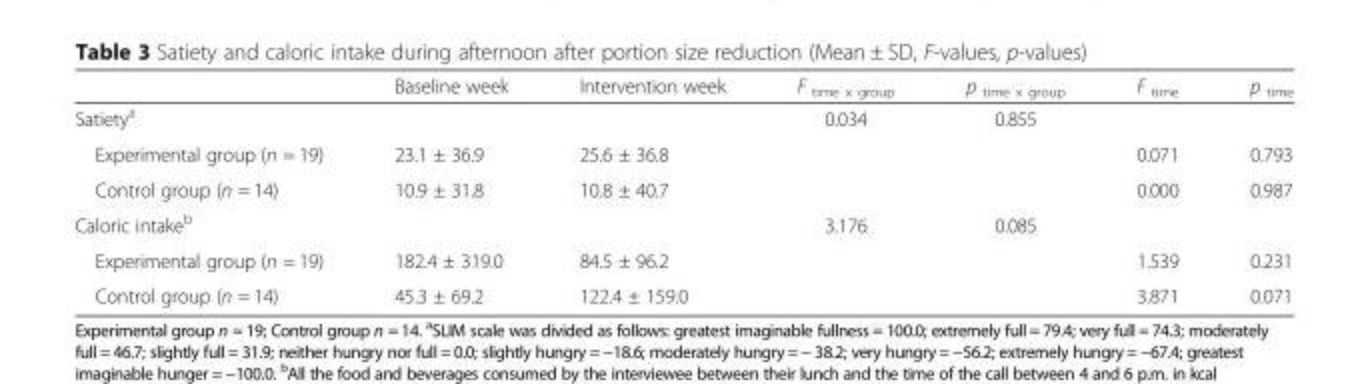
<table><thead><tr><td></td><td>Baseline week</td><td>Intervention week</td><td>F <sub>time x group</sub></td><td>p <sub>time x group</sub></td><td>F <sub>time</sub></td><td>p <sub>time</sub></td></tr></thead><tbody><tr><td>Satiety<sup>a</sup></td><td></td><td></td><td>0.034</td><td>0.855</td><td></td><td></td></tr><tr><td>Experimental group (n = 19)</td><td>23.1 ± 36.9</td><td>25.6 ± 36.8</td><td></td><td></td><td>0.071</td><td>0.793</td></tr><tr><td>Control group (n = 14)</td><td>10.9 ± 31.8</td><td>10.8 ± 40.7</td><td></td><td></td><td>0.000</td><td>0.987</td></tr><tr><td>Caloric intake<sup>b</sup></td><td></td><td></td><td>3.176</td><td>0.085</td><td></td><td></td></tr><tr><td>Experimental group (n = 19)</td><td>182.4 ± 319.0</td><td>84.5 ± 96.2</td><td></td><td></td><td>1.539</td><td>0.231</td></tr><tr><td>Control group (n = 14)</td><td>45.3 ± 69.2</td><td>122.4 ± 159.0</td><td></td><td></td><td>3.871</td><td>0.071</td></tr></tbody></table>